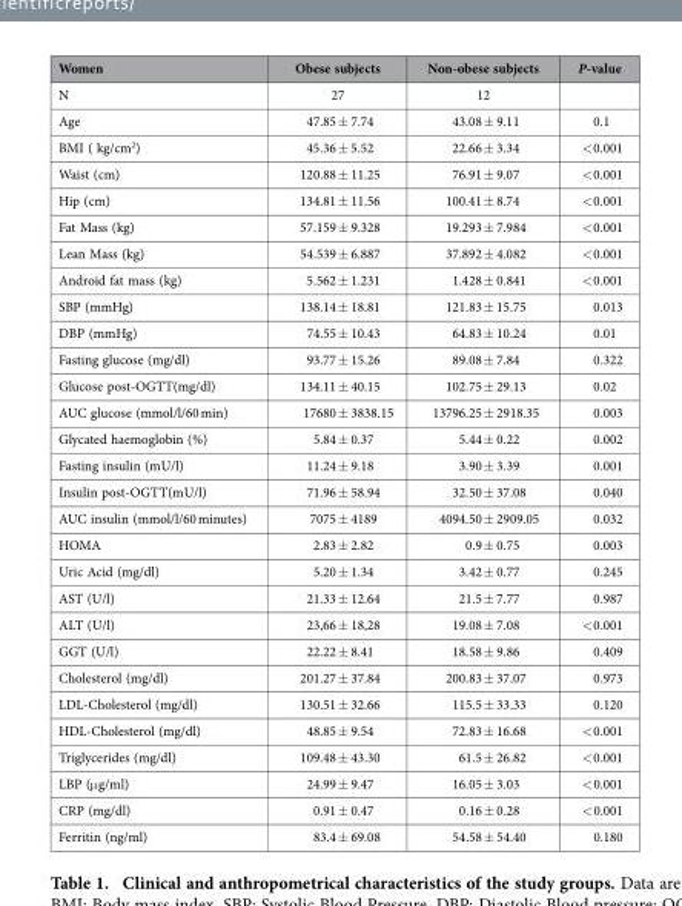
<table><thead><tr><td>Women</td><td>Obese subjects</td><td>Non-obese subjects</td><td>P-value</td></tr></thead><tbody><tr><td>N</td><td>27</td><td>12</td><td></td></tr><tr><td>Age</td><td>47.85 ± 7.74</td><td>43.08 ± 9.11</td><td>0.1</td></tr><tr><td>BMI ( kg/cm<sup>2</sup>)</td><td>45.36 ± 5.52</td><td>22.66 ± 3.34</td><td>&lt; 0.001</td></tr><tr><td>Waist (cm)</td><td>120.88 ± 11.25</td><td>76.91 ± 9.07</td><td>&lt; 0.001</td></tr><tr><td>Hip (cm)</td><td>134.81 ± 11.56</td><td>100.41 ± 8.74</td><td>&lt; 0.001</td></tr><tr><td>Fat Mass (kg)</td><td>57.159 ± 9.328</td><td>19.293 ± 7.984</td><td>&lt; 0.001</td></tr><tr><td>Lean Mass (kg)</td><td>54.539 ± 6.887</td><td>37.892 ± 4.082</td><td>&lt; 0.001</td></tr><tr><td>Android fat mass (kg)</td><td>5.562 ± 1.231</td><td>1.428 ± 0.841</td><td>&lt; 0.001</td></tr><tr><td>SBP (mmHg)</td><td>138.14 ± 18.81</td><td>121.83 ± 15.75</td><td>0.013</td></tr><tr><td>DBP (mmHg)</td><td>74.55 ± 10.43</td><td>64.83 ± 10.24</td><td>0.01</td></tr><tr><td>Fasting glucose (mg/dl)</td><td>93.77 ± 15.26</td><td>89.08 ± 7.84</td><td>0.322</td></tr><tr><td>Glucose post-OGTT(mg/dl)</td><td>134.11 ± 40.15</td><td>102.75 ± 29.13</td><td>0.02</td></tr><tr><td>AUC glucose (mmol/l/60 min)</td><td>17680 ± 3838.15</td><td>13796.25 ± 2918.35</td><td>0.003</td></tr><tr><td>Glycated haemoglobin (%)</td><td>5.84 ± 0.37</td><td>5.44 ± 0.22</td><td>0.002</td></tr><tr><td>Fasting insulin (mU/l)</td><td>11.24 ± 9.18</td><td>3.90 ± 3.39</td><td>0.001</td></tr><tr><td>Insulin post-OGTT(mU/l)</td><td>71.96 ± 58.94</td><td>32.50 ± 37.08</td><td>0.040</td></tr><tr><td>AUC insulin (mmol/l/60 minutes)</td><td>7075 ± 4189</td><td>4094.50 ± 2909.05</td><td>0.032</td></tr><tr><td>HOMA</td><td>2.83 ± 2.82</td><td>0.9 ± 0.75</td><td>0.003</td></tr><tr><td>Uric Acid (mg/dl)</td><td>5.20 ± 1.34</td><td>3.42 ± 0.77</td><td>0.245</td></tr><tr><td>AST (U/l)</td><td>21.33 ± 12.64</td><td>21.5 ± 7.77</td><td>0.987</td></tr><tr><td>ALT (U/l)</td><td>23,66 ± 18,28</td><td>19.08 ± 7.08</td><td>&lt; 0.001</td></tr><tr><td>GGT (U/l)</td><td>22.22 ± 8.41</td><td>18.58 ± 9.86</td><td>0.409</td></tr><tr><td>Cholesterol (mg/dl)</td><td>201.27 ± 37.84</td><td>200.83 ± 37.07</td><td>0.973</td></tr><tr><td>LDL-Cholesterol (mg/dl)</td><td>130.51 ± 32.66</td><td>115.5 ± 33.33</td><td>0.120</td></tr><tr><td>HDL-Cholesterol (mg/dl)</td><td>48.85 ± 9.54</td><td>72.83 ± 16.68</td><td>&lt; 0.001</td></tr><tr><td>Triglycerides (mg/dl)</td><td>109.48 ± 43.30</td><td>61.5 ± 26.82</td><td>&lt; 0.001</td></tr><tr><td>LBP (μ g/ml)</td><td>24.99 ± 9.47</td><td>16.05 ± 3.03</td><td>&lt; 0.001</td></tr><tr><td>CRP (mg/dl)</td><td>0.91 ± 0.47</td><td>0.16 ± 0.28</td><td>&lt; 0.001</td></tr><tr><td>Ferritin (ng/ml)</td><td>83.4 ± 69.08</td><td>54.58 ± 54.40</td><td>0.180</td></tr></tbody></table>